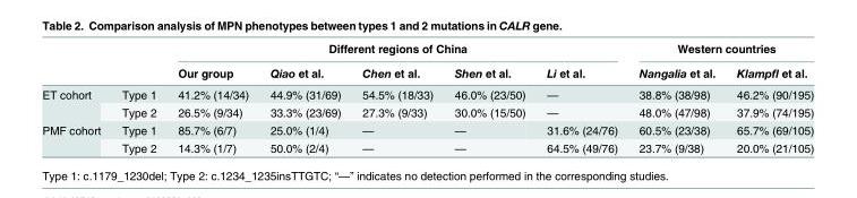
<table><thead><tr><td rowspan="2"></td><td rowspan="2"></td><td colspan="5">Different regions of China</td><td colspan="2">Western countries</td></tr><tr><td>Our group</td><td>Qiao et al.</td><td>Chen et al.</td><td>Shen et al.</td><td>Li et al.</td><td>Nangalia et al.</td><td>Klampfl et al.</td></tr></thead><tbody><tr><td rowspan="2">ET cohort</td><td>Type 1</td><td>41.2% (14/34)</td><td>44.9% (31/69)</td><td>54.5% (18/33)</td><td>46.0% (23/50)</td><td>—</td><td>38.8% (38/98)</td><td>46.2% (90/195)</td></tr><tr><td>Type 2</td><td>26.5% (9/34)</td><td>33.3% (23/69)</td><td>27.3% (9/33)</td><td>30.0% (15/50)</td><td>—</td><td>48.0% (47/98)</td><td>37.9% (74/195)</td></tr><tr><td rowspan="2">PMF cohort</td><td>Type 1</td><td>85.7% (6/7)</td><td>25.0% (1/4)</td><td>—</td><td>—</td><td>31.6% (24/76)</td><td>60.5% (23/38)</td><td>65.7% (69/105)</td></tr><tr><td>Type 2</td><td>14.3% (1/7)</td><td>50.0% (2/4)</td><td>—</td><td>—</td><td>64.5% (49/76)</td><td>23.7% (9/38)</td><td>20.0% (21/105)</td></tr></tbody></table>